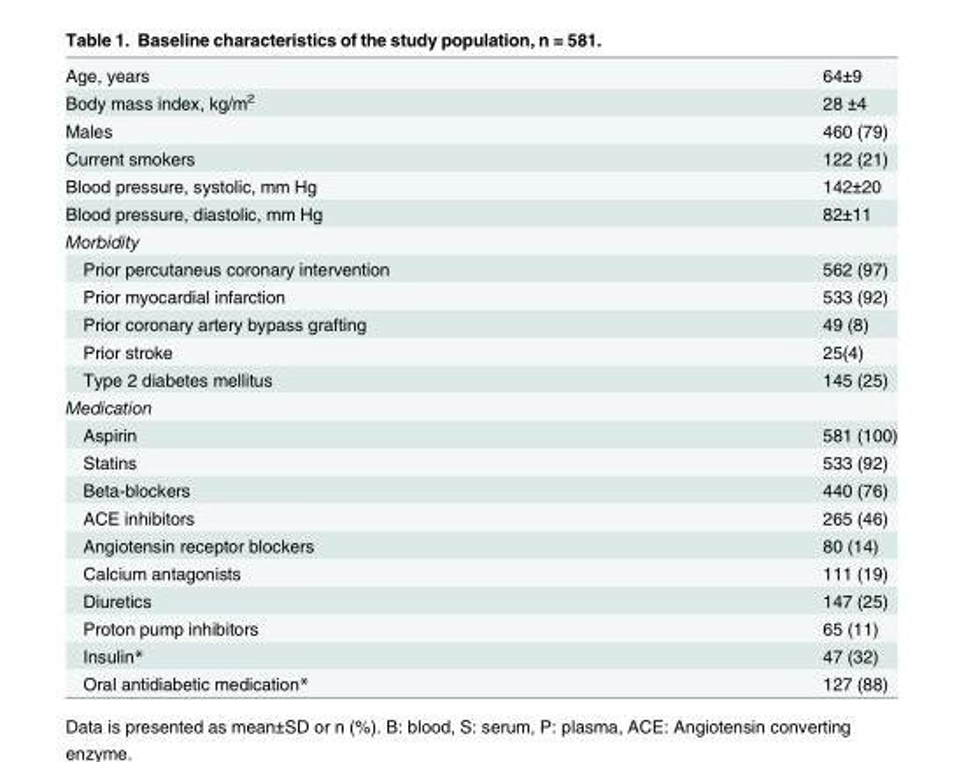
<table><tbody><tr><td>Age, years</td><td>64±9</td></tr><tr><td>Body mass index, kg/m<sup>2</sup></td><td>28 ±4</td></tr><tr><td>Males</td><td>460 (79)</td></tr><tr><td>Current smokers</td><td>122 (21)</td></tr><tr><td>Blood pressure, systolic, mm Hg</td><td>142±20</td></tr><tr><td>Blood pressure, diastolic, mm Hg</td><td>82±11</td></tr><tr><td colspan="2">Morbidity</td></tr><tr><td>Prior percutaneus coronary intervention</td><td>562 (97)</td></tr><tr><td>Prior myocardial infarction</td><td>533 (92)</td></tr><tr><td>Prior coronary artery bypass grafting</td><td>49 (8)</td></tr><tr><td>Prior stroke</td><td>25(4)</td></tr><tr><td>Type 2 diabetes mellitus</td><td>145 (25)</td></tr><tr><td colspan="2">Medication</td></tr><tr><td>Aspirin</td><td>581 (100)</td></tr><tr><td>Statins</td><td>533 (92)</td></tr><tr><td>Beta-blockers</td><td>440 (76)</td></tr><tr><td>ACE inhibitors</td><td>265 (46)</td></tr><tr><td>Angiotensin receptor blockers</td><td>80 (14)</td></tr><tr><td>Calcium antagonists</td><td>111 (19)</td></tr><tr><td>Diuretics</td><td>147 (25)</td></tr><tr><td>Proton pump inhibitors</td><td>65 (11)</td></tr><tr><td>Insulin*</td><td>47 (32)</td></tr><tr><td>Oral antidiabetic medication*</td><td>127 (88)</td></tr></tbody></table>